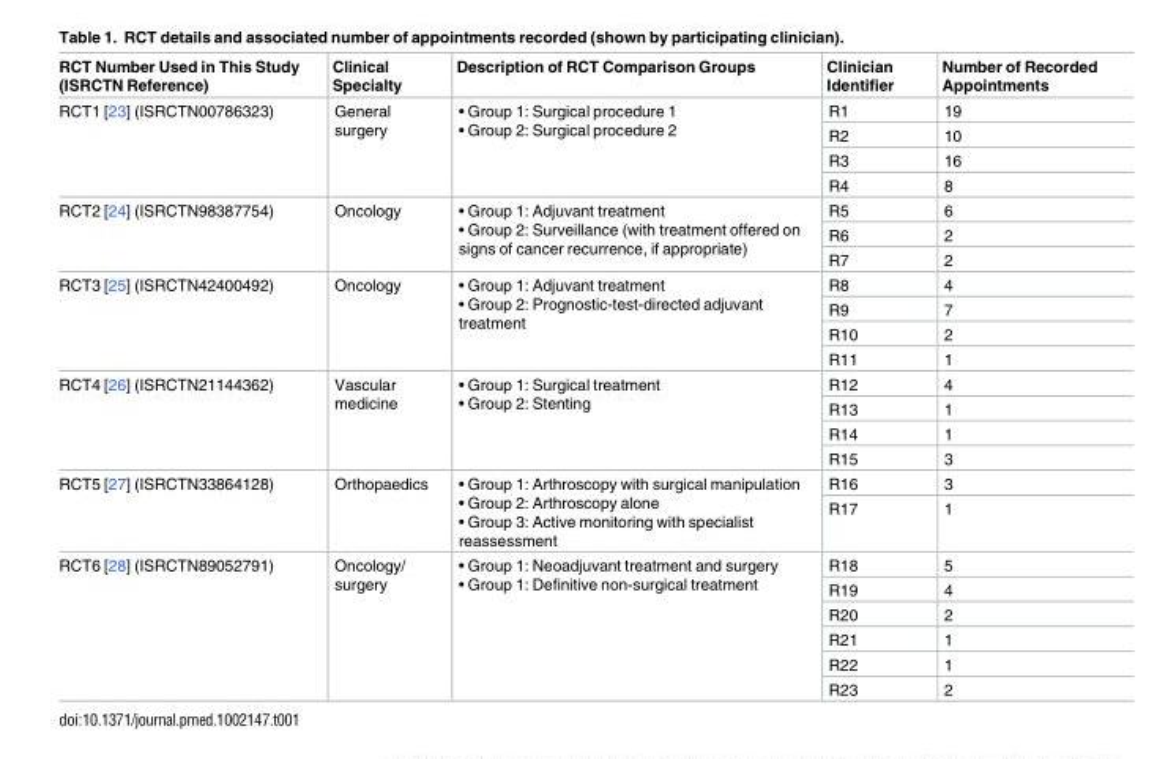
<table><thead><tr><td>RCT Number Used in This Study (ISRCTN Reference)</td><td>Clinical Specialty</td><td>Description of RCT Comparison Groups</td><td>Clinician Identifier</td><td>Number of Recorded Appointments</td></tr></thead><tbody><tr><td rowspan="4">RCT1 [23] (ISRCTN00786323)</td><td rowspan="4">General surgery</td><td rowspan="4">• Group 1: Surgical procedure 1 • Group 2: Surgical procedure 2</td><td>R1</td><td>19</td></tr><tr><td>R2</td><td>10</td></tr><tr><td>R3</td><td>16</td></tr><tr><td>R4</td><td>8</td></tr><tr><td rowspan="3">RCT2 [24] (ISRCTN98387754)</td><td rowspan="3">Oncology</td><td rowspan="3">• Group 1: Adjuvant treatment • Group 2: Surveillance (with treatment offered on signs of cancer recurrence, if appropriate)</td><td>R5</td><td>6</td></tr><tr><td>R6</td><td>2</td></tr><tr><td>R7</td><td>2</td></tr><tr><td rowspan="4">RCT3 [25] (ISRCTN42400492)</td><td rowspan="4">Oncology</td><td rowspan="4">• Group 1: Adjuvant treatment • Group 2: Prognostic-test-directed adjuvant treatment</td><td>R8</td><td>4</td></tr><tr><td>R9</td><td>7</td></tr><tr><td>R10</td><td>2</td></tr><tr><td>R11</td><td>1</td></tr><tr><td rowspan="4">RCT4 [26] (ISRCTN21144362)</td><td rowspan="4">Vascular medicine</td><td rowspan="4">• Group 1: Surgical treatment • Group 2: Stenting</td><td>R12</td><td>4</td></tr><tr><td>R13</td><td>1</td></tr><tr><td>R14</td><td>1</td></tr><tr><td>R15</td><td>3</td></tr><tr><td rowspan="2">RCT5 [27] (ISRCTN33864128)</td><td rowspan="2">Orthopaedics</td><td rowspan="2">• Group 1: Arthroscopy with surgical manipulation • Group 2: Arthroscopy alone • Group 3: Active monitoring with specialist reassessment</td><td>R16</td><td>3</td></tr><tr><td>R17</td><td>1</td></tr><tr><td rowspan="6">RCT6 [28] (ISRCTN89052791)</td><td rowspan="6">Oncology/ surgery</td><td rowspan="6">• Group 1: Neoadjuvant treatment and surgery • Group 1: Definitive non-surgical treatment</td><td>R18</td><td>5</td></tr><tr><td>R19</td><td>4</td></tr><tr><td>R20</td><td>2</td></tr><tr><td>R21</td><td>1</td></tr><tr><td>R22</td><td>1</td></tr><tr><td>R23</td><td>2</td></tr></tbody></table>